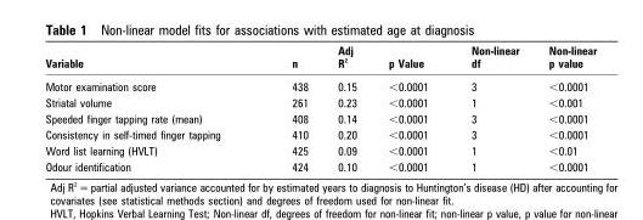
<table><thead><tr><td>Variable</td><td>n</td><td>Adj R <sup>2</sup></td><td>p Value</td><td>Non-linear df</td><td>Non-linear p value</td></tr></thead><tbody><tr><td>Motor examination score</td><td>438</td><td>0.15</td><td>&lt;0.0001</td><td>3</td><td>&lt;0.0001</td></tr><tr><td>Striatal volume</td><td>261</td><td>0.23</td><td>&lt;0.0001</td><td>1</td><td>&lt;0.001</td></tr><tr><td>Speeded finger tapping rate (mean)</td><td>408</td><td>0.14</td><td>&lt;0.0001</td><td>3</td><td>&lt;0.0001</td></tr><tr><td>Consistency in self-timed finger tapping</td><td>410</td><td>0.20</td><td>&lt;0.0001</td><td>3</td><td>&lt;0.0001</td></tr><tr><td>Word list learning (HVLT)</td><td>425</td><td>0.09</td><td>&lt;0.0001</td><td>1</td><td>&lt;0.01</td></tr><tr><td>Odour identification</td><td>424</td><td>0.10</td><td>&lt;0.0001</td><td>1</td><td>&lt;0.0001</td></tr></tbody></table>